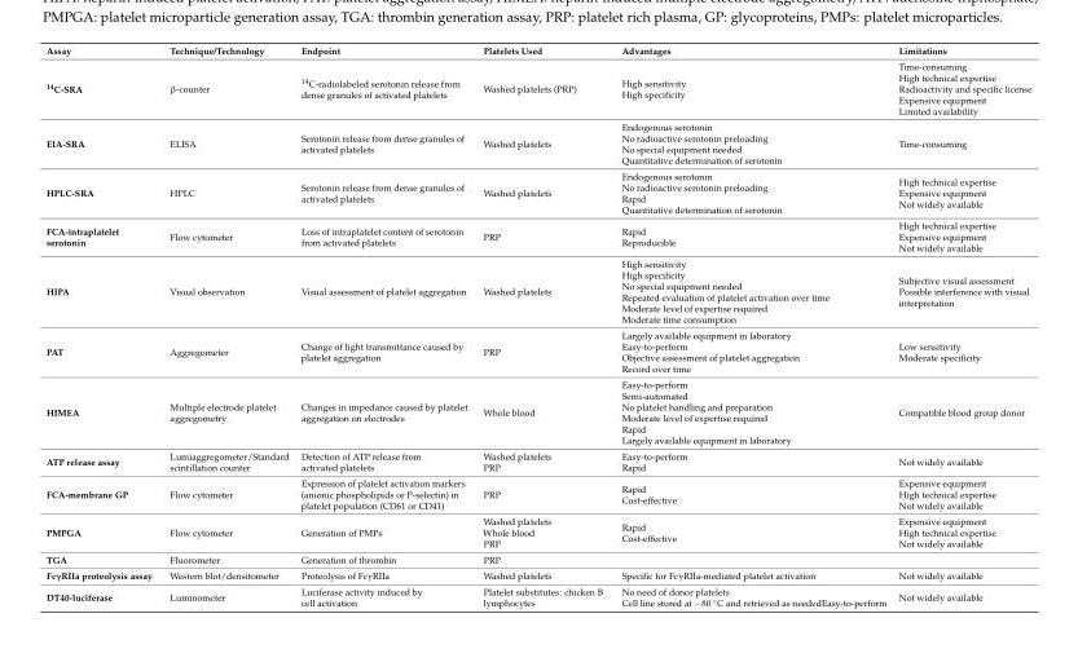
<table><thead><tr><td>Assay</td><td>Technique/Technology</td><td>Endpoint</td><td>Platelets Used</td><td>Advantages</td><td>Limitations</td></tr></thead><tbody><tr><td><sup>14</sup>C-SRA</td><td>β-counter</td><td><sup>14</sup>C-radiolabeled serotonin release from dense granules of activated platelets</td><td>Washed platelets (PRP)</td><td>High sensitivity High specificity</td><td>Time-consuming High technical expertise Radioactivity and specific license Expensive equipment Limited availability</td></tr><tr><td>EIA-SRA</td><td>ELISA</td><td>Serotonin release from dense granules of activated platelets</td><td>Washed platelets</td><td>Endogenous serotonin No radioactive serotonin preloading No special equipment needed Quantitative determination of serotonin</td><td>Time-consuming</td></tr><tr><td>HPLC-SRA</td><td>HPLC</td><td>Serotonin release from dense granules of activated platelets</td><td>Washed platelets</td><td>Endogenous serotonin No radioactive serotonin preloading Rapid Quantitative determination of serotonin</td><td>High technical expertise Expensive equipment Not widely available</td></tr><tr><td>FCA-intraplatelet serotonin</td><td>Flow cytometer</td><td>Loss of intraplatelet content of serotonin from activated platelets</td><td>PRP</td><td>Rapid Reproducible</td><td>High technical expertise Expensive equipment Not widely available</td></tr><tr><td>HIPA</td><td>Visual observation</td><td>Visual assessment of platelet aggregation</td><td>Washed platelets</td><td>High sensitivity High specificity No special equipment needed Repeated evaluation of platelet activation over time Moderate level of expertise required Moderate time consumption</td><td>Subjective visual assessment Possible interference with visual interpretation</td></tr><tr><td>PAT</td><td>Aggregometer</td><td>Change of light transmittance caused by platelet aggregation</td><td>PRP</td><td>Largely available equipment in laboratory Easy-to-perform Objective assessment of platelet aggregation Record over time</td><td>Low sensitivity Moderate specificity</td></tr><tr><td>HIMEA</td><td>Multiple electrode platelet aggregometry</td><td>Changes in impedance caused by platelet aggregation on electrodes</td><td>Whole blood</td><td>Easy-to-perform Semi-automated No platelet handling and preparation Moderate level of expertise required Rapid Largely available equipment in laboratory</td><td>Compatible blood group donor</td></tr><tr><td>ATP release assay</td><td>Lumiaggregometer/Standard scintillation counter</td><td>Detection of ATP release from activated platelets</td><td>Washed platelets PRP</td><td>Easy-to-perform Rapid</td><td>Not widely available</td></tr><tr><td>FCA-membrane GP</td><td>Flow cytometer</td><td>Expression of platelet activation markers (anionic phospholipids or P-selectin) in platelet population (CD61 or CD41)</td><td>PRP</td><td>Rapid Cost-effective</td><td>Expensive equipment High technical expertise Not widely available</td></tr><tr><td>PMPGA</td><td>Flow cytometer</td><td>Generation of PMPs</td><td>Washed platelets Whole blood PRP</td><td>Rapid Cost-effective</td><td>Expensive equipment High technical expertise Not widely available</td></tr><tr><td>TGA</td><td>Fluorometer</td><td>Generation of thrombin</td><td>PRP</td><td></td><td></td></tr><tr><td>FcγRIIa proteolysis assay</td><td>Western blot/densitometer</td><td>Proteolysis of FcγRIIa</td><td>Washed platelets</td><td>Specific for FcγRIIa-mediated platelet activation</td><td>Not widely available</td></tr><tr><td>DT40-luciferase</td><td>Luminometer</td><td>Luciferase activity induced by cell activation</td><td>Platelet substitutes: chicken B lymphocytes</td><td>No need of donor platelets Cell line stored at −80 ◦C and retrieved as neededEasy-to-perform</td><td>Not widely available</td></tr></tbody></table>